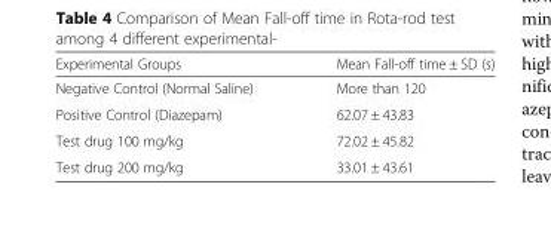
<table><thead><tr><td>Experimental Groups</td><td>Mean Fall-off time ± SD (s)</td></tr></thead><tbody><tr><td>Negative Control (Normal Saline)</td><td>More than 120</td></tr><tr><td>Positive Control (Diazepam)</td><td>62.07 ± 43.83</td></tr><tr><td>Test drug 100 mg/kg</td><td>72.02 ± 45.82</td></tr><tr><td>Test drug 200 mg/kg</td><td>33.01 ± 43.61</td></tr></tbody></table>